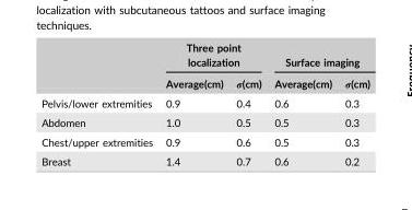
<table><thead><tr><td rowspan="2"></td><td colspan="2">Three point localization</td><td colspan="2">Surface imaging</td></tr><tr><td>Average(cm)</td><td>σ(cm)</td><td>Average(cm)</td><td>σ(cm)</td></tr></thead><tbody><tr><td>Pelvis/lower extremities</td><td>0.9</td><td>0.4</td><td>0.6</td><td>0.3</td></tr><tr><td>Abdomen</td><td>1.0</td><td>0.5</td><td>0.5</td><td>0.3</td></tr><tr><td>Chest/upper extremities</td><td>0.9</td><td>0.6</td><td>0.5</td><td>0.3</td></tr><tr><td>Breast</td><td>1.4</td><td>0.7</td><td>0.6</td><td>0.2</td></tr></tbody></table>